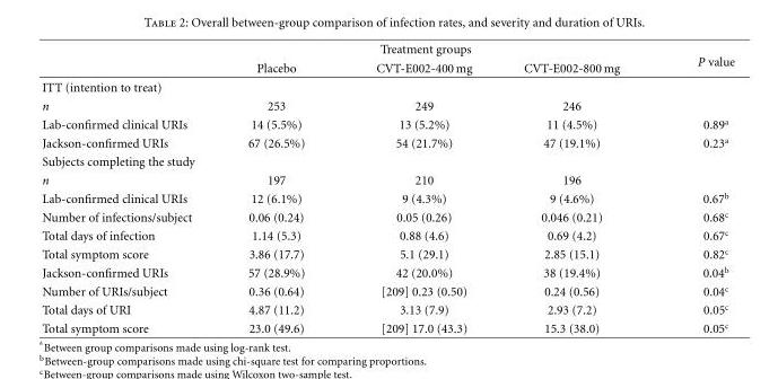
<table><thead><tr><td rowspan="2"></td><td colspan="3">Treatment groups</td><td rowspan="2">P value</td></tr><tr><td>Placebo</td><td>CVT-E002-400 mg</td><td>CVT-E002-800 mg</td></tr></thead><tbody><tr><td colspan="5">ITT (intention to treat)</td></tr><tr><td>n</td><td>253</td><td>249</td><td>246</td><td></td></tr><tr><td>Lab-confirmed clinical URIs</td><td>14 (5.5%)</td><td>13 (5.2%)</td><td>11 (4.5%)</td><td>0.89<sup>a</sup></td></tr><tr><td>Jackson-confirmed URIs</td><td>67 (26.5%)</td><td>54 (21.7%)</td><td>47 (19.1%)</td><td>0.23<sup>a</sup></td></tr><tr><td colspan="5">Subjects completing the study</td></tr><tr><td>n</td><td>197</td><td>210</td><td>196</td><td></td></tr><tr><td>Lab-confirmed clinical URIs</td><td>12 (6.1%)</td><td>9 (4.3%)</td><td>9 (4.6%)</td><td>0.67<sup>b</sup></td></tr><tr><td>Number of infections/subject</td><td>0.06 (0.24)</td><td>0.05 (0.26)</td><td>0.046 (0.21)</td><td>0.68<sup>c</sup></td></tr><tr><td>Total days of infection</td><td>1.14 (5.3)</td><td>0.88 (4.6)</td><td>0.69 (4.2)</td><td>0.67<sup>c</sup></td></tr><tr><td>Total symptom score</td><td>3.86 (17.7)</td><td>5.1 (29.1)</td><td>2.85 (15.1)</td><td>0.82<sup>c</sup></td></tr><tr><td>Jackson-confirmed URIs</td><td>57 (28.9%)</td><td>42 (20.0%)</td><td>38 (19.4%)</td><td>0.04<sup>b</sup></td></tr><tr><td>Number of URIs/subject</td><td>0.36 (0.64)</td><td>[209] 0.23 (0.50)</td><td>0.24 (0.56)</td><td>0.04<sup>c</sup></td></tr><tr><td>Total days of URI</td><td>4.87 (11.2)</td><td>3.13 (7.9)</td><td>2.93 (7.2)</td><td>0.05<sup>c</sup></td></tr><tr><td>Total symptom score</td><td>23.0 (49.6)</td><td>[209] 17.0 (43.3)</td><td>15.3 (38.0)</td><td>0.05<sup>c</sup></td></tr></tbody></table>